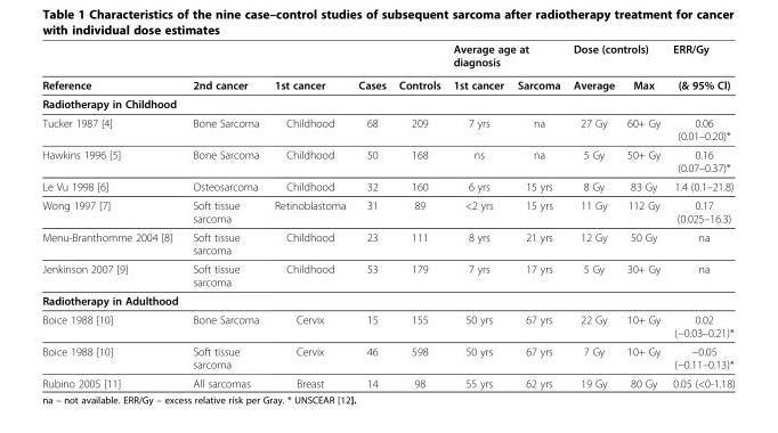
<table><thead><tr><td rowspan="2">Reference</td><td rowspan="2">2nd cancer</td><td rowspan="2">1st cancer</td><td rowspan="2">Cases</td><td rowspan="2">Controls</td><td colspan="2">Average age at diagnosis</td><td colspan="2">Dose (controls)</td><td rowspan="2">ERR/Gy (&amp; 95% Cl)</td></tr><tr><td>1st cancer</td><td>Sarcoma</td><td>Average</td><td>Max</td></tr></thead><tbody><tr><td colspan="10">Radiotherapy in Childhood</td></tr><tr><td>Tucker 1987 [4]</td><td>Bone Sarcoma</td><td>Childhood</td><td>68</td><td>209</td><td>7 yrs</td><td>na</td><td>27 Gy</td><td>60+ Gy</td><td>0.06 (0.01–0.20)*</td></tr><tr><td>Hawkins 1996 [5]</td><td>Bone Sarcoma</td><td>Childhood</td><td>50</td><td>168</td><td>ns</td><td>na</td><td>5 Gy</td><td>50+ Gy</td><td>0.16 (0.07–0.37)*</td></tr><tr><td>Le Vu 1998 [6]</td><td>Osteosarcoma</td><td>Childhood</td><td>32</td><td>160</td><td>6 yrs</td><td>15 yrs</td><td>8 Gy</td><td>83 Gy</td><td>1.4 (0.1–21.8)</td></tr><tr><td>Wong 1997 [7]</td><td>Soft tissue sarcoma</td><td>Retinoblastoma</td><td>31</td><td>89</td><td>&lt;2 yrs</td><td>15 yrs</td><td>11 Gy</td><td>112 Gy</td><td>0.17 (0.025–16.3)</td></tr><tr><td>Menu-Branthomme 2004 [8]</td><td>Soft tissue sarcoma</td><td>Childhood</td><td>23</td><td>111</td><td>8 yrs</td><td>21 yrs</td><td>12 Gy</td><td>50 Gy</td><td>na</td></tr><tr><td>Jenkinson 2007 [9]</td><td>Soft tissue sarcoma</td><td>Childhood</td><td>53</td><td>179</td><td>7 yrs</td><td>17 yrs</td><td>5 Gy</td><td>30+ Gy</td><td>na</td></tr><tr><td colspan="10">Radiotherapy in Adulthood</td></tr><tr><td>Boice 1988 [10]</td><td>Bone Sarcoma</td><td>Cervix</td><td>15</td><td>155</td><td>50 yrs</td><td>67 yrs</td><td>22 Gy</td><td>10+ Gy</td><td>0.02 (−0.03–0.21)*</td></tr><tr><td>Boice 1988 [10]</td><td>Soft tissue sarcoma</td><td>Cervix</td><td>46</td><td>598</td><td>50 yrs</td><td>67 yrs</td><td>7 Gy</td><td>10+ Gy</td><td>−0.05 (−0.11–0.13)*</td></tr><tr><td>Rubino 2005 [11]</td><td>All sarcomas</td><td>Breast</td><td>14</td><td>98</td><td>55 yrs</td><td>62 yrs</td><td>19 Gy</td><td>80 Gy</td><td>0.05 (&lt;0-1.18)</td></tr></tbody></table>